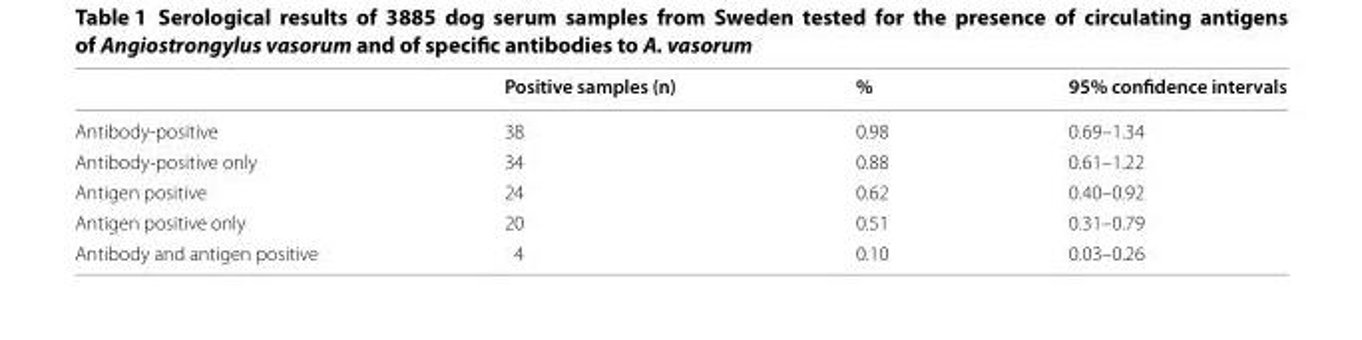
<table><thead><tr><td></td><td>Positive samples (n)</td><td>%</td><td>95% confidence intervals</td></tr></thead><tbody><tr><td>Antibody-positive</td><td>38</td><td>0.98</td><td>0.69–1.34</td></tr><tr><td>Antibody-positive only</td><td>34</td><td>0.88</td><td>0.61–1.22</td></tr><tr><td>Antigen positive</td><td>24</td><td>0.62</td><td>0.40–0.92</td></tr><tr><td>Antigen positive only</td><td>20</td><td>0.51</td><td>0.31–0.79</td></tr><tr><td>Antibody and antigen positive</td><td>4</td><td>0.10</td><td>0.03–0.26</td></tr></tbody></table>